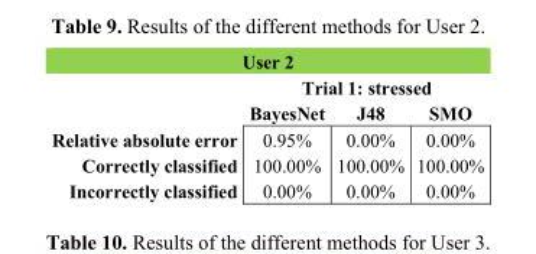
<table><thead><tr><td colspan="4">User 2</td></tr><tr><td rowspan="2"></td><td colspan="3">Trial 1: stressed</td></tr><tr><td>BayesNet</td><td>J48</td><td>SMO</td></tr></thead><tbody><tr><td>Relative absolute error</td><td>0.95%</td><td>0.00%</td><td>0.00%</td></tr><tr><td>Correctly classified</td><td>100.00%</td><td>100.00%</td><td>100.00%</td></tr><tr><td>Incorrectly classified</td><td>0.00%</td><td>0.00%</td><td>0.00%</td></tr></tbody></table>